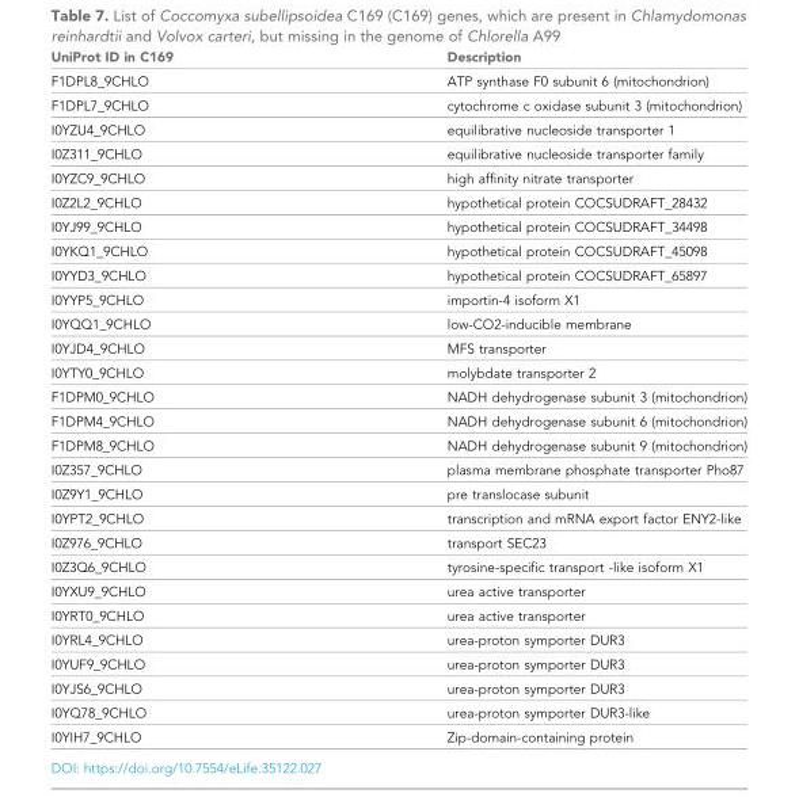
<table><thead><tr><td>UniProt ID in C169</td><td>Description</td></tr></thead><tbody><tr><td>F1DPL8_9CHLO</td><td>ATP synthase F0 subunit 6 (mitochondrion)</td></tr><tr><td>F1DPL7_9CHLO</td><td>cytochrome c oxidase subunit 3 (mitochondrion)</td></tr><tr><td>I0YZU4_9CHLO</td><td>equilibrative nucleoside transporter 1</td></tr><tr><td>I0Z311_9CHLO</td><td>equilibrative nucleoside transporter family</td></tr><tr><td>I0YZC9_9CHLO</td><td>high affinity nitrate transporter</td></tr><tr><td>I0Z2L2_9CHLO</td><td>hypothetical protein COCSUDRAFT_28432</td></tr><tr><td>I0YJ99_9CHLO</td><td>hypothetical protein COCSUDRAFT_34498</td></tr><tr><td>I0YKQ1_9CHLO</td><td>hypothetical protein COCSUDRAFT_45098</td></tr><tr><td>I0YYD3_9CHLO</td><td>hypothetical protein COCSUDRAFT_65897</td></tr><tr><td>I0YYP5_9CHLO</td><td>importin-4 isoform X1</td></tr><tr><td>I0YQQ1_9CHLO</td><td>low-CO2-inducible membrane</td></tr><tr><td>I0YJD4_9CHLO</td><td>MFS transporter</td></tr><tr><td>I0YTY0_9CHLO</td><td>molybdate transporter 2</td></tr><tr><td>F1DPM0_9CHLO</td><td>NADH dehydrogenase subunit 3 (mitochondrion)</td></tr><tr><td>F1DPM4_9CHLO</td><td>NADH dehydrogenase subunit 6 (mitochondrion)</td></tr><tr><td>F1DPM8_9CHLO</td><td>NADH dehydrogenase subunit 9 (mitochondrion)</td></tr><tr><td>I0Z357_9CHLO</td><td>plasma membrane phosphate transporter Pho87</td></tr><tr><td>I0Z9Y1_9CHLO</td><td>pre translocase subunit</td></tr><tr><td>I0YPT2_9CHLO</td><td>transcription and mRNA export factor ENY2-like</td></tr><tr><td>I0Z976_9CHLO</td><td>transport SEC23</td></tr><tr><td>I0Z3Q6_9CHLO</td><td>tyrosine-specific transport -like isoform X1</td></tr><tr><td>I0YXU9_9CHLO</td><td>urea active transporter</td></tr><tr><td>I0YRT0_9CHLO</td><td>urea active transporter</td></tr><tr><td>I0YRL4_9CHLO</td><td>urea-proton symporter DUR3</td></tr><tr><td>I0YUF9_9CHLO</td><td>urea-proton symporter DUR3</td></tr><tr><td>I0YJS6_9CHLO</td><td>urea-proton symporter DUR3</td></tr><tr><td>I0YQ78_9CHLO</td><td>urea-proton symporter DUR3-like</td></tr><tr><td>I0YIH7_9CHLO</td><td>Zip-domain-containing protein</td></tr></tbody></table>